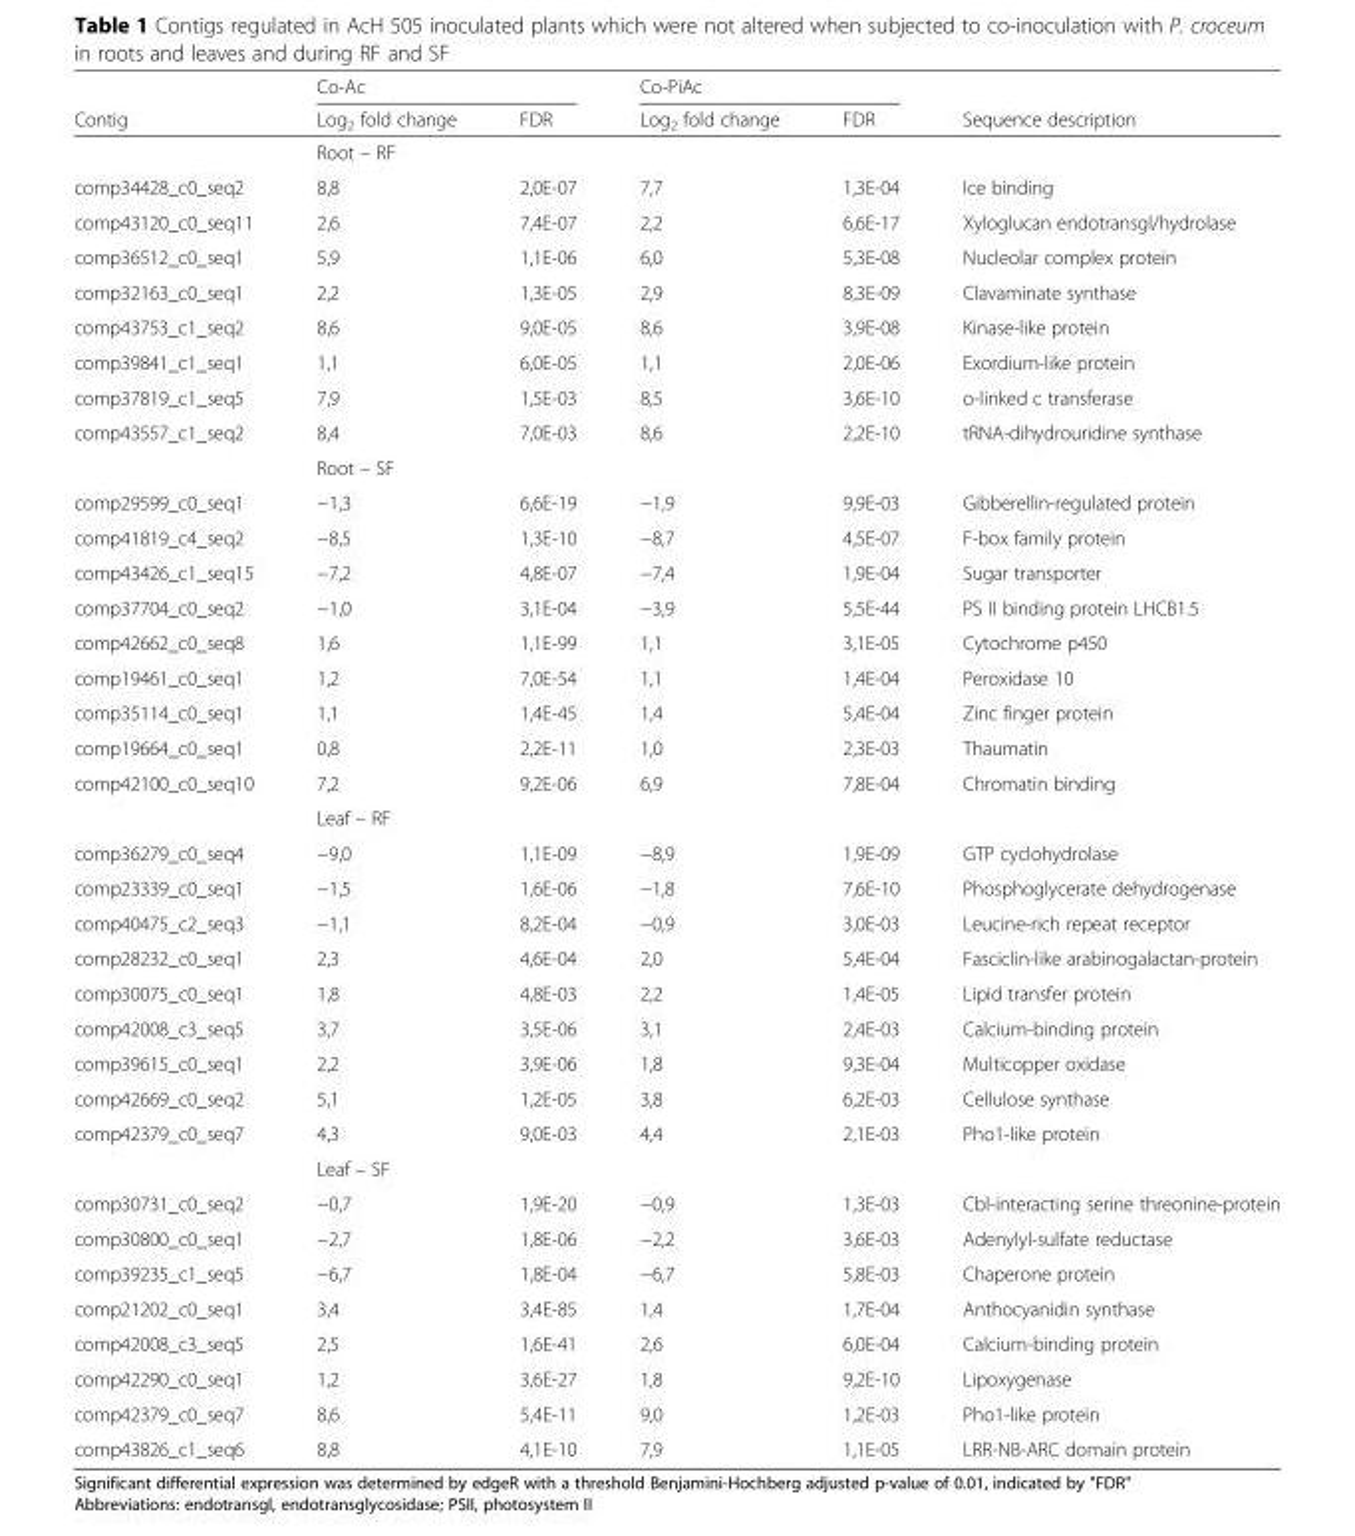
<table><thead><tr><td rowspan="2">Contig</td><td colspan="2">Co-Ac</td><td colspan="2">Co-PiAc</td><td rowspan="2">Sequence description</td></tr><tr><td>Log<sub>2</sub> fold change</td><td>FDR</td><td>Log<sub>2</sub> fold change</td><td>FDR</td></tr></thead><tbody><tr><td></td><td colspan="4">Root – RF</td><td></td></tr><tr><td>comp34428_c0_seq2</td><td>8,8</td><td>2,0E-07</td><td>7,7</td><td>1,3E-04</td><td>Ice binding</td></tr><tr><td>comp43120_c0_seq11</td><td>2,6</td><td>7,4E-07</td><td>2,2</td><td>6,6E-17</td><td>Xyloglucan endotransgl/hydrolase</td></tr><tr><td>comp36512_c0_seq1</td><td>5,9</td><td>1,1E-06</td><td>6,0</td><td>5,3E-08</td><td>Nucleolar complex protein</td></tr><tr><td>comp32163_c0_seq1</td><td>2,2</td><td>1,3E-05</td><td>2,9</td><td>8,3E-09</td><td>Clavaminate synthase</td></tr><tr><td>comp43753_c1_seq2</td><td>8,6</td><td>9,0E-05</td><td>8,6</td><td>3,9E-08</td><td>Kinase-like protein</td></tr><tr><td>comp39841_c1_seq1</td><td>1,1</td><td>6,0E-05</td><td>1,1</td><td>2,0E-06</td><td>Exordium-like protein</td></tr><tr><td>comp37819_c1_seq5</td><td>7,9</td><td>1,5E-03</td><td>8,5</td><td>3,6E-10</td><td>o-linked c transferase</td></tr><tr><td rowspan="2">comp43557_c1_seq2</td><td>8,4</td><td>7,0E-03</td><td>8,6</td><td>2,2E-10</td><td>tRNA-dihydrouridine synthase</td></tr><tr><td colspan="4">Root – SF</td><td></td></tr><tr><td>comp29599_c0_seq1</td><td>−1,3</td><td>6,6E-19</td><td>−1,9</td><td>9,9E-03</td><td>Gibberellin-regulated protein</td></tr><tr><td>comp41819_c4_seq2</td><td>−8,5</td><td>1,3E-10</td><td>−8,7</td><td>4,5E-07</td><td>F-box family protein</td></tr><tr><td>comp43426_c1_seq15</td><td>−7,2</td><td>4,8E-07</td><td>−7,4</td><td>1,9E-04</td><td>Sugar transporter</td></tr><tr><td>comp37704_c0_seq2</td><td>−1,0</td><td>3,1E-04</td><td>−3,9</td><td>5,5E-44</td><td>PS II binding protein LHCB1.5</td></tr><tr><td>comp42662_c0_seq8</td><td>1,6</td><td>1,1E-99</td><td>1,1</td><td>3,1E-05</td><td>Cytochrome p450</td></tr><tr><td>comp19461_c0_seq1</td><td>1,2</td><td>7,0E-54</td><td>1,1</td><td>1,4E-04</td><td>Peroxidase 10</td></tr><tr><td>comp35114_c0_seq1</td><td>1,1</td><td>1,4E-45</td><td>1,4</td><td>5,4E-04</td><td>Zinc finger protein</td></tr><tr><td>comp19664_c0_seq1</td><td>0,8</td><td>2,2E-11</td><td>1,0</td><td>2,3E-03</td><td>Thaumatin</td></tr><tr><td rowspan="2">comp42100_c0_seq10</td><td>7,2</td><td>9,2E-06</td><td>6,9</td><td>7,8E-04</td><td>Chromatin binding</td></tr><tr><td colspan="4">Leaf – RF</td><td></td></tr><tr><td>comp36279_c0_seq4</td><td>−9,0</td><td>1,1E-09</td><td>−8,9</td><td>1,9E-09</td><td>GTP cyclohydrolase</td></tr><tr><td>comp23339_c0_seq1</td><td>−1,5</td><td>1,6E-06</td><td>−1,8</td><td>7,6E-10</td><td>Phosphoglycerate dehydrogenase</td></tr><tr><td>comp40475_c2_seq3</td><td>−1,1</td><td>8,2E-04</td><td>−0,9</td><td>3,0E-03</td><td>Leucine-rich repeat receptor</td></tr><tr><td>comp28232_c0_seq1</td><td>2,3</td><td>4,6E-04</td><td>2,0</td><td>5,4E-04</td><td>Fasciclin-like arabinogalactan-protein</td></tr><tr><td>comp30075_c0_seq1</td><td>1,8</td><td>4,8E-03</td><td>2,2</td><td>1,4E-05</td><td>Lipid transfer protein</td></tr><tr><td>comp42008_c3_seq5</td><td>3,7</td><td>3,5E-06</td><td>3,1</td><td>2,4E-03</td><td>Calcium-binding protein</td></tr><tr><td>comp39615_c0_seq1</td><td>2,2</td><td>3,9E-06</td><td>1,8</td><td>9,3E-04</td><td>Multicopper oxidase</td></tr><tr><td>comp42669_c0_seq2</td><td>5,1</td><td>1,2E-05</td><td>3,8</td><td>6,2E-03</td><td>Cellulose synthase</td></tr><tr><td rowspan="2">comp42379_c0_seq7</td><td>4,3</td><td>9,0E-03</td><td>4,4</td><td>2,1E-03</td><td>Pho1-like protein</td></tr><tr><td colspan="4">Leaf – SF</td><td></td></tr><tr><td>comp30731_c0_seq2</td><td>−0,7</td><td>1,9E-20</td><td>−0,9</td><td>1,3E-03</td><td>Cbl-interacting serine threonine-protein</td></tr><tr><td>comp30800_c0_seq1</td><td>−2,7</td><td>1,8E-06</td><td>−2,2</td><td>3,6E-03</td><td>Adenylyl-sulfate reductase</td></tr><tr><td>comp39235_c1_seq5</td><td>−6,7</td><td>1,8E-04</td><td>−6,7</td><td>5,8E-03</td><td>Chaperone protein</td></tr><tr><td>comp21202_c0_seq1</td><td>3,4</td><td>3,4E-85</td><td>1,4</td><td>1,7E-04</td><td>Anthocyanidin synthase</td></tr><tr><td>comp42008_c3_seq5</td><td>2,5</td><td>1,6E-41</td><td>2,6</td><td>6,0E-04</td><td>Calcium-binding protein</td></tr><tr><td>comp42290_c0_seq1</td><td>1,2</td><td>3,6E-27</td><td>1,8</td><td>9,2E-10</td><td>Lipoxygenase</td></tr><tr><td>comp42379_c0_seq7</td><td>8,6</td><td>5,4E-11</td><td>9,0</td><td>1,2E-03</td><td>Pho1-like protein</td></tr><tr><td>comp43826_c1_seq6</td><td>8,8</td><td>4,1E-10</td><td>7,9</td><td>1,1E-05</td><td>LRR-NB-ARC domain protein</td></tr></tbody></table>